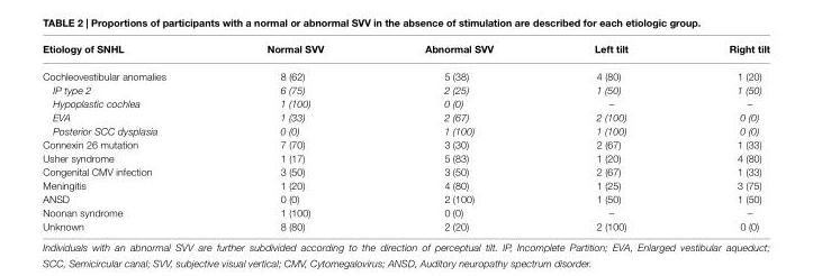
<table><thead><tr><td>Etiology of SNHL</td><td>Normal SVV</td><td>Abnormal SVV</td><td>Left tilt</td><td>Right tilt</td></tr></thead><tbody><tr><td>Cochleovestibular anomalies</td><td>8 (62)</td><td>5 (38)</td><td>4 (80)</td><td>1 (20)</td></tr><tr><td>IP type 2</td><td>6 (75)</td><td>2 (25)</td><td>1 (50)</td><td>1 (50)</td></tr><tr><td>Hypoplastic cochlea</td><td>1 (100)</td><td>0 (0)</td><td>–</td><td>–</td></tr><tr><td>EVA</td><td>1 (33)</td><td>2 (67)</td><td>2 (100)</td><td>0 (0)</td></tr><tr><td>Posterior SCC dysplasia</td><td>0 (0)</td><td>1 (100)</td><td>1 (100)</td><td>0 (0)</td></tr><tr><td>Connexin 26 mutation</td><td>7 (70)</td><td>3 (30)</td><td>2 (67)</td><td>1 (33)</td></tr><tr><td>Usher syndrome</td><td>1 (17)</td><td>5 (83)</td><td>1 (20)</td><td>4 (80)</td></tr><tr><td>Congenital CMV infection</td><td>3 (50)</td><td>3 (50)</td><td>2 (67)</td><td>1 (33)</td></tr><tr><td>Meningitis</td><td>1 (20)</td><td>4 (80)</td><td>1 (25)</td><td>3 (75)</td></tr><tr><td>ANSD</td><td>0 (0)</td><td>2 (100)</td><td>1 (50)</td><td>1 (50)</td></tr><tr><td>Noonan syndrome</td><td>1 (100)</td><td>0 (0)</td><td>–</td><td>–</td></tr><tr><td>Unknown</td><td>8 (80)</td><td>2 (20)</td><td>2 (100)</td><td>0 (0)</td></tr></tbody></table>